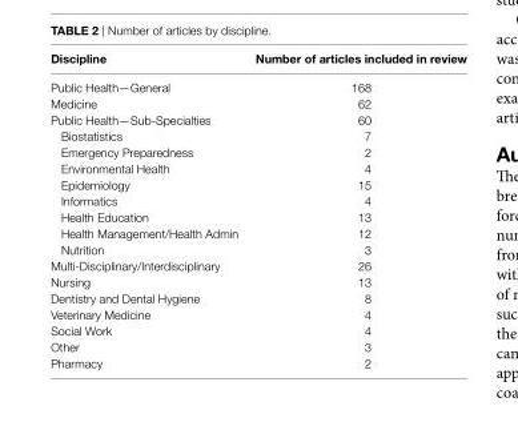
<table><thead><tr><td>Discipline</td><td>number of articles included in review</td></tr></thead><tbody><tr><td>Public Health—General</td><td>168</td></tr><tr><td>Medicine</td><td>62</td></tr><tr><td>Public Health—Sub-Specialties</td><td>60</td></tr><tr><td>Biostatistics</td><td>7</td></tr><tr><td>Emergency Preparedness</td><td>2</td></tr><tr><td>Environmental Health</td><td>4</td></tr><tr><td>Epidemiology</td><td>15</td></tr><tr><td>Informatics</td><td>4</td></tr><tr><td>Health Education</td><td>13</td></tr><tr><td>Health Management/Health Admin</td><td>12</td></tr><tr><td>Nutrition</td><td>3</td></tr><tr><td>Multi-Disciplinary/Interdisciplinary</td><td>26</td></tr><tr><td>Nursing</td><td>13</td></tr><tr><td>Dentistry and Dental Hygiene</td><td>8</td></tr><tr><td>Veterinary Medicine</td><td>4</td></tr><tr><td>Social Work</td><td>4</td></tr><tr><td>Other</td><td>3</td></tr><tr><td>Pharmacy</td><td>2</td></tr></tbody></table>